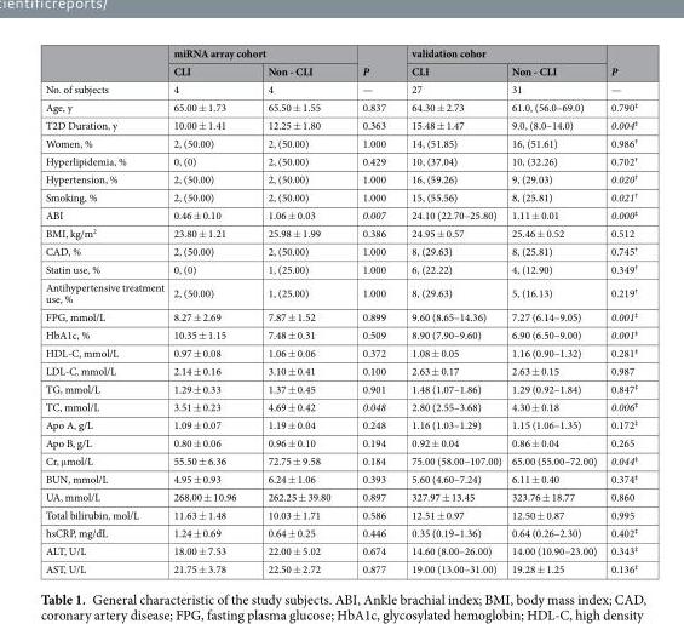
<table><thead><tr><td rowspan="2"></td><td colspan="2">miRNA array cohort</td><td rowspan="2">P</td><td colspan="2">validation cohor</td><td rowspan="2">P</td></tr><tr><td>CLI</td><td>Non - CLI</td><td>CLI</td><td>Non - CLI</td></tr></thead><tbody><tr><td>No. of subjects</td><td>4</td><td>4</td><td>—</td><td>27</td><td>31</td><td>—</td></tr><tr><td>Age, y</td><td>65.00 ± 1.73</td><td>65.50 ± 1.55</td><td>0.837</td><td>64.30 ± 2.73</td><td>61.0, (56.0–69.0)</td><td>0.790<sup>‡</sup></td></tr><tr><td>T2D Duration, y</td><td>10.00 ± 1.41</td><td>12.25 ± 1.80</td><td>0.363</td><td>15.48 ± 1.47</td><td>9.0, (8.0–14.0)</td><td>0.004<sup>‡</sup></td></tr><tr><td>Women, %</td><td>2, (50.00)</td><td>2, (50.00)</td><td>1.000</td><td>14, (51.85)</td><td>16, (51.61)</td><td>0.986<sup>†</sup></td></tr><tr><td>Hyperlipidemia, %</td><td>0, (0)</td><td>2, (50.00)</td><td>0.429</td><td>10, (37.04)</td><td>10, (32.26)</td><td>0.702<sup>†</sup></td></tr><tr><td>Hypertension, %</td><td>2, (50.00)</td><td>2, (50.00)</td><td>1.000</td><td>16, (59.26)</td><td>9, (29.03)</td><td>0.020<sup>†</sup></td></tr><tr><td>Smoking, %</td><td>2, (50.00)</td><td>2, (50.00)</td><td>1.000</td><td>15, (55.56)</td><td>8, (25.81)</td><td>0.021<sup>†</sup></td></tr><tr><td>ABI</td><td>0.46 ± 0.10</td><td>1.06 ± 0.03</td><td>0.007</td><td>24.10 (22.70–25.80)</td><td>1.11 ± 0.01</td><td>0.000<sup>‡</sup></td></tr><tr><td>BMI, kg/m<sup>2</sup></td><td>23.80 ± 1.21</td><td>25.98 ± 1.99</td><td>0.386</td><td>24.95 ± 0.57</td><td>25.46 ± 0.52</td><td>0.512</td></tr><tr><td>CAD, %</td><td>2, (50.00)</td><td>2, (50.00)</td><td>1.000</td><td>8, (29.63)</td><td>8, (25.81)</td><td>0.745<sup>†</sup></td></tr><tr><td>Statin use, %</td><td>0, (0)</td><td>1, (25.00)</td><td>1.000</td><td>6, (22.22)</td><td>4, (12.90)</td><td>0.349<sup>†</sup></td></tr><tr><td>Antihypertensive treatment use, %</td><td>2, (50.00)</td><td>1, (25.00)</td><td>1.000</td><td>8, (29.63)</td><td>5, (16.13)</td><td>0.219<sup>†</sup></td></tr><tr><td>FPG, mmol/L</td><td>8.27 ± 2.69</td><td>7.87 ± 1.52</td><td>0.899</td><td>9.60 (8.65–14.36)</td><td>7.27 (6.14–9.05)</td><td>0.001<sup>‡</sup></td></tr><tr><td>HbA1c, %</td><td>10.35 ± 1.15</td><td>7.48 ± 0.31</td><td>0.509</td><td>8.90 (7.90–9.60)</td><td>6.90 (6.50–9.00)</td><td>0.001<sup>‡</sup></td></tr><tr><td>HDL-C, mmol/L</td><td>0.97 ± 0.08</td><td>1.06 ± 0.06</td><td>0.372</td><td>1.08 ± 0.05</td><td>1.16 (0.90–1.32)</td><td>0.281<sup>‡</sup></td></tr><tr><td>LDL-C, mmol/L</td><td>2.14 ± 0.16</td><td>3.10 ± 0.41</td><td>0.100</td><td>2.63 ± 0.17</td><td>2.63 ± 0.15</td><td>0.987</td></tr><tr><td>TG, mmol/L</td><td>1.29 ± 0.33</td><td>1.37 ± 0.45</td><td>0.901</td><td>1.48 (1.07–1.86)</td><td>1.29 (0.92–1.84)</td><td>0.847<sup>‡</sup></td></tr><tr><td>TC, mmol/L</td><td>3.51 ± 0.23</td><td>4.69 ± 0.42</td><td>0.048</td><td>2.80 (2.55–3.68)</td><td>4.30 ± 0.18</td><td>0.006<sup>‡</sup></td></tr><tr><td>Apo A, g/L</td><td>1.09 ± 0.07</td><td>1.19 ± 0.04</td><td>0.248</td><td>1.16 (1.03–1.29)</td><td>1.15 (1.06–1.35)</td><td>0.172<sup>‡</sup></td></tr><tr><td>Apo B, g/L</td><td>0.80 ± 0.06</td><td>0.96 ± 0.10</td><td>0.194</td><td>0.92 ± 0.04</td><td>0.86 ± 0.04</td><td>0.265</td></tr><tr><td>Cr, μmol/L</td><td>55.50 ± 6.36</td><td>72.75 ± 9.58</td><td>0.184</td><td>75.00 (58.00–107.00)</td><td>65.00 (55.00–72.00)</td><td>0.044<sup>‡</sup></td></tr><tr><td>BUN, mmol/L</td><td>4.95 ± 0.93</td><td>6.24 ± 1.06</td><td>0.393</td><td>5.60 (4.60–7.24)</td><td>6.11 ± 0.40</td><td>0.374<sup>‡</sup></td></tr><tr><td>UA, mmol/L</td><td>268.00 ± 10.96</td><td>262.25 ± 39.80</td><td>0.897</td><td>327.97 ± 13.45</td><td>323.76 ± 18.77</td><td>0.860</td></tr><tr><td>Total bilirubin, mol/L</td><td>11.63 ± 1.48</td><td>10.03 ± 1.71</td><td>0.586</td><td>12.51 ± 0.97</td><td>12.50 ± 0.87</td><td>0.995</td></tr><tr><td>hsCRP, mg/dL</td><td>1.24 ± 0.69</td><td>0.64 ± 0.25</td><td>0.446</td><td>0.35 (0.19–1.36)</td><td>0.64 (0.26–2.30)</td><td>0.402<sup>‡</sup></td></tr><tr><td>ALT, U/L</td><td>18.00 ± 7.53</td><td>22.00 ± 5.02</td><td>0.674</td><td>14.60 (8.00–26.00)</td><td>14.00 (10.90–23.00)</td><td>0.343<sup>‡</sup></td></tr><tr><td>AST, U/L</td><td>21.75 ± 3.78</td><td>22.50 ± 2.72</td><td>0.877</td><td>19.00 (13.00–31.00)</td><td>19.28 ± 1.25</td><td>0.136<sup>‡</sup></td></tr></tbody></table>